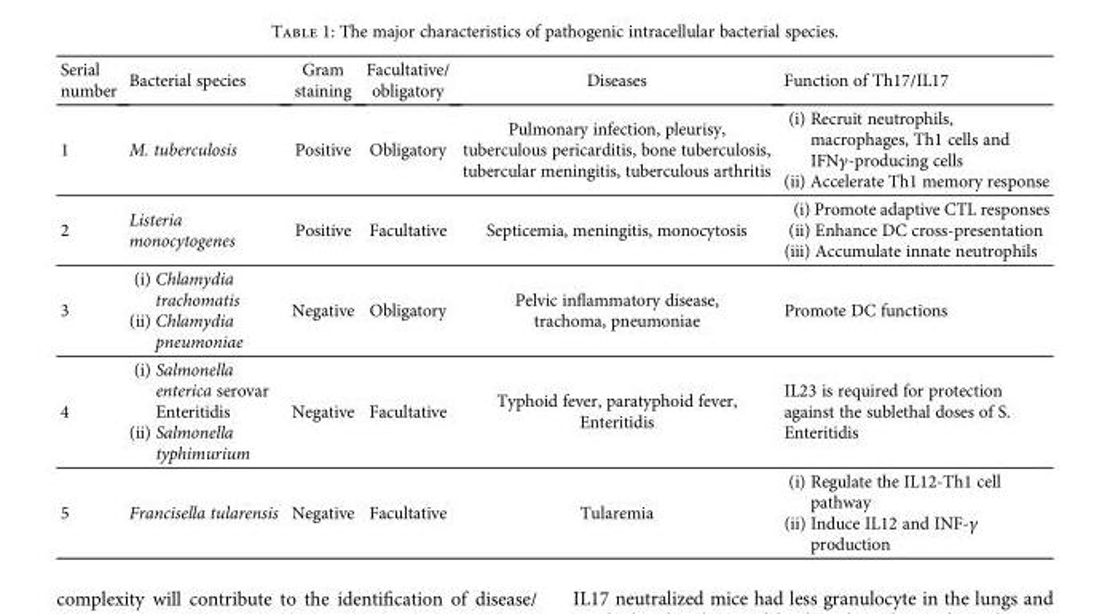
<table><thead><tr><td>Serial number</td><td>Bacterial species</td><td>Gram staining</td><td>Facultative/ obligatory</td><td>Diseases</td><td>Function of Th17/IL17</td></tr></thead><tbody><tr><td>1</td><td>M. tuberculosis</td><td>Positive</td><td>Obligatory</td><td>Pulmonary infection, pleurisy, tuberculous pericarditis, bone tuberculosis, tubercular meningitis, tuberculous arthritis</td><td>(i) Recruit neutrophils, macrophages, Th1 cells and IFNγ-producing cells (ii) Accelerate Th1 memory response</td></tr><tr><td>2</td><td>Listeria monocytogenes</td><td>Positive</td><td>Facultative</td><td>Septicemia, meningitis, monocytosis</td><td>(i) Promote adaptive CTL responses (ii) Enhance DC cross-presentation (iii) Accumulate innate neutrophils</td></tr><tr><td>3</td><td>(i) Chlamydia trachomatis (ii) Chlamydia pneumoniae</td><td>Negative</td><td>Obligatory</td><td>Pelvic inflammatory disease, trachoma, pneumoniae</td><td>Promote DC functions</td></tr><tr><td>4</td><td>(i) Salmonella enterica serovar Enteritidis (ii) Salmonella typhimurium</td><td>Negative</td><td>Facultative</td><td>Typhoid fever, paratyphoid fever, Enteritidis</td><td>IL23 is required for protection against the sublethal doses of S. Enteritidis</td></tr><tr><td>5</td><td>Francisella tularensis</td><td>Negative</td><td>Facultative</td><td>Tularemia</td><td>(i) Regulate the IL12-Th1 cell pathway (ii) Induce IL12 and INF-γ production</td></tr></tbody></table>